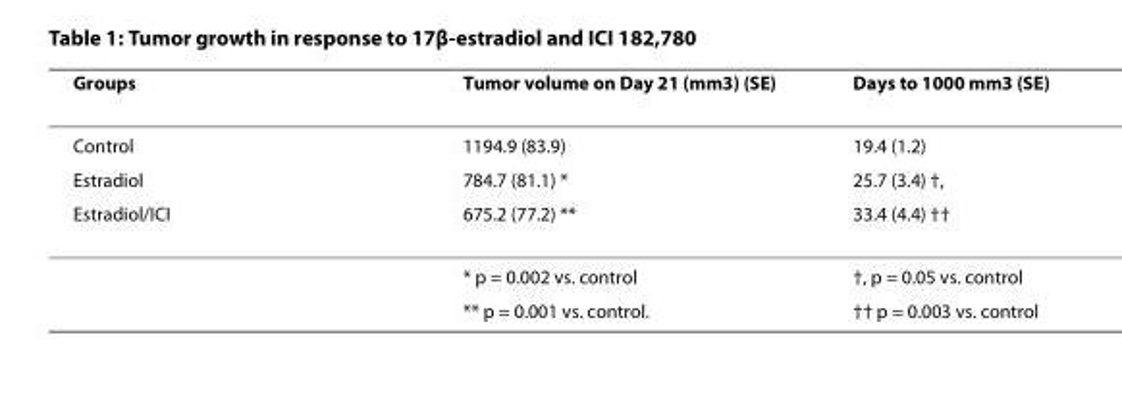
<table><thead><tr><td>Groups</td><td>Tumor volume on Day 21 (mm3) (SE)</td><td>Days to 1000 mm3 (SE)</td></tr></thead><tbody><tr><td>Control</td><td>1194.9 (83.9)</td><td>19.4 (1.2)</td></tr><tr><td>Estradiol</td><td>784.7 (81.1) *</td><td>25.7 (3.4) †,</td></tr><tr><td rowspan="3">Estradiol/ICI</td><td>675.2 (77.2) **</td><td>33.4 (4.4) ††</td></tr><tr><td>* p = 0.002 vs. control</td><td>†, p = 0.05 vs. control</td></tr><tr><td>** p = 0.001 vs. control.</td><td>†† p = 0.003 vs. control</td></tr></tbody></table>